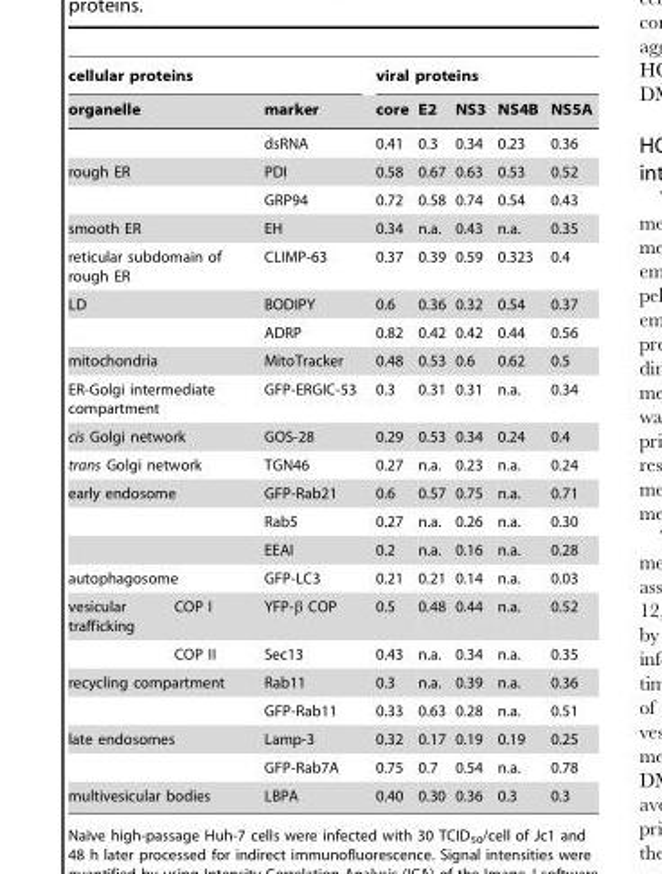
<table><thead><tr><td colspan="3">cellular proteins</td><td colspan="5">viral proteins</td></tr><tr><td colspan="2">organelle</td><td>marker</td><td>core</td><td>E2</td><td>NS3</td><td>NS4B</td><td>NS5A</td></tr></thead><tbody><tr><td colspan="2"></td><td>dsRNA</td><td>0.41</td><td>0.3</td><td>0.34</td><td>0.23</td><td>0.36</td></tr><tr><td rowspan="2" colspan="2">rough ER</td><td>PDI</td><td>0.58</td><td>0.67</td><td>0.63</td><td>0.53</td><td>0.52</td></tr><tr><td>GRP94</td><td>0.72</td><td>0.58</td><td>0.74</td><td>0.54</td><td>0.43</td></tr><tr><td colspan="2">smooth ER</td><td>EH</td><td>0.34</td><td>n.a.</td><td>0.43</td><td>n.a.</td><td>0.35</td></tr><tr><td colspan="2">reticular subdomain of rough ER</td><td>CLIMP-63</td><td>0.37</td><td>0.39</td><td>0.59</td><td>0.323</td><td>0.4</td></tr><tr><td rowspan="2" colspan="2">LD</td><td>BODIPY</td><td>0.6</td><td>0.36</td><td>0.32</td><td>0.54</td><td>0.37</td></tr><tr><td>ADRP</td><td>0.82</td><td>0.42</td><td>0.42</td><td>0.44</td><td>0.56</td></tr><tr><td colspan="2">mitochondria</td><td>MitoTracker</td><td>0.48</td><td>0.53</td><td>0.6</td><td>0.62</td><td>0.5</td></tr><tr><td colspan="2">ER-Golgi intermediate compartment</td><td>GFP-ERGIC-53</td><td>0.3</td><td>0.31</td><td>0.31</td><td>n.a.</td><td>0.34</td></tr><tr><td colspan="2">cis Golgi network</td><td>GOS-28</td><td>0.29</td><td>0.53</td><td>0.34</td><td>0.24</td><td>0.4</td></tr><tr><td colspan="2">trans Golgi network</td><td>TGN46</td><td>0.27</td><td>n.a.</td><td>0.23</td><td>n.a.</td><td>0.24</td></tr><tr><td rowspan="3" colspan="2">early endosome</td><td>GFP-Rab21</td><td>0.6</td><td>0.57</td><td>0.75</td><td>n.a.</td><td>0.71</td></tr><tr><td>Rab5</td><td>0.27</td><td>n.a.</td><td>0.26</td><td>n.a.</td><td>0.30</td></tr><tr><td>EEAI</td><td>0.2</td><td>n.a.</td><td>0.16</td><td>n.a.</td><td>0.28</td></tr><tr><td colspan="2">autophagosome</td><td>GFP-LC3</td><td>0.21</td><td>0.21</td><td>0.14</td><td>n.a.</td><td>0.03</td></tr><tr><td rowspan="2">vesicular trafficking</td><td>COP I</td><td>YFP-β COP</td><td>0.5</td><td>0.48</td><td>0.44</td><td>n.a.</td><td>0.52</td></tr><tr><td>COP II</td><td>Sec13</td><td>0.43</td><td>n.a.</td><td>0.34</td><td>n.a.</td><td>0.35</td></tr><tr><td rowspan="2" colspan="2">recycling compartment</td><td>Rab11</td><td>0.3</td><td>n.a.</td><td>0.39</td><td>n.a.</td><td>0.36</td></tr><tr><td>GFP-Rab11</td><td>0.33</td><td>0.63</td><td>0.28</td><td>n.a.</td><td>0.51</td></tr><tr><td rowspan="2" colspan="2">late endosomes</td><td>Lamp-3</td><td>0.32</td><td>0.17</td><td>0.19</td><td>0.19</td><td>0.25</td></tr><tr><td>GFP-Rab7A</td><td>0.75</td><td>0.7</td><td>0.54</td><td>n.a.</td><td>0.78</td></tr><tr><td colspan="2">multivesicular bodies</td><td>LBPA</td><td>0.40</td><td>0.30</td><td>0.36</td><td>0.3</td><td>0.3</td></tr></tbody></table>